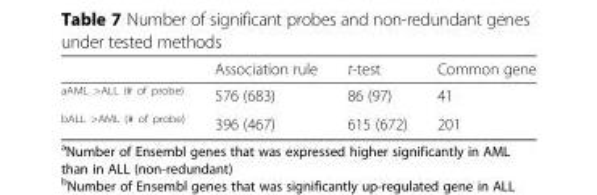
<table><thead><tr><td></td><td>Association rule</td><td>t-test</td><td>Common gene</td></tr></thead><tbody><tr><td><sup>aAML &gt;ALL (# of probe)</sup></td><td>576 (683)</td><td>86 (97)</td><td>41</td></tr><tr><td><sup>bALL &gt;AML (# of probe)</sup></td><td>396 (467)</td><td>615 (672)</td><td>201</td></tr></tbody></table>